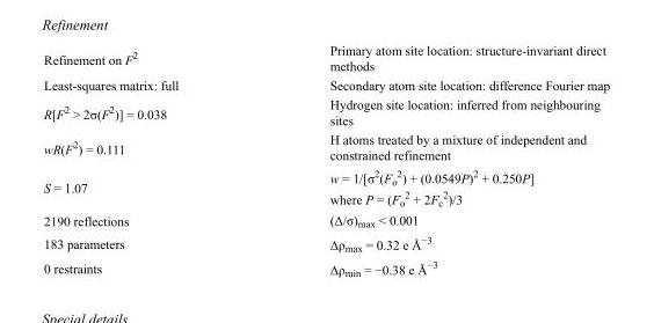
<table><tbody><tr><td>Refinement on F<sup>2</sup></td><td>Primary atom site location: structure-invariant direct methods</td></tr><tr><td>Least-squares matrix: full</td><td>Secondary atom site location: difference Fourier map</td></tr><tr><td>R[F<sup>2</sup> &gt; 2σ(F<sup>2</sup>)] = 0.038</td><td>Hydrogen site location: inferred from neighbouring sites</td></tr><tr><td>wR(F<sup>2</sup>) = 0.111</td><td>H atoms treated by a mixture of independent and constrained refinement</td></tr><tr><td>S = 1.07</td><td>w = 1/[σ<sup>2</sup>(F<sub>o</sub> <sup>2</sup>) + (0.0549P)<sup>2</sup> + 0.250P] where P = (F<sub>o</sub> <sup>2</sup> + 2F<sub>c</sub> <sup>2</sup>)/3</td></tr><tr><td>2190 reflections</td><td>(Δ/σ)<sub>max</sub> &lt; 0.001</td></tr><tr><td>183 parameters</td><td>Δρ<sub>max</sub> = 0.32 e Å<sup>−3</sup></td></tr><tr><td>0 restraints</td><td>Δρ<sub>min</sub> = −0.38 e Å<sup>−3</sup></td></tr></tbody></table>